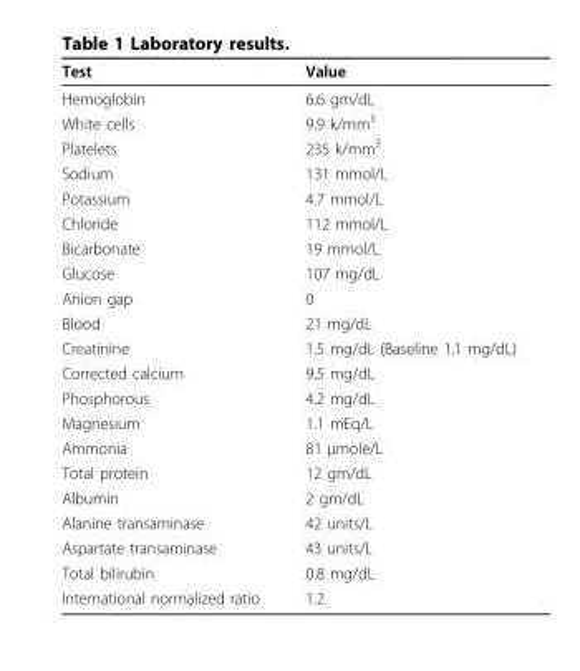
<table><thead><tr><td>Test</td><td>Value</td></tr></thead><tbody><tr><td>Hemoglobin</td><td>6.6 gm/dL</td></tr><tr><td>White cells</td><td>9.9 k/mm<sup>3</sup></td></tr><tr><td>Platelets</td><td>235 k/mm<sup>3</sup></td></tr><tr><td>Sodium</td><td>131 mmol/L</td></tr><tr><td>Potassium</td><td>4.7 mmol/L</td></tr><tr><td>Chloride</td><td>112 mmol/L</td></tr><tr><td>Bicarbonate</td><td>19 mmol/L</td></tr><tr><td>Glucose</td><td>107 mg/dL</td></tr><tr><td>Anion gap</td><td>0</td></tr><tr><td>Blood</td><td>21 mg/dL</td></tr><tr><td>Creatinine</td><td>1.5 mg/dL (Baseline 1.1 mg/dL)</td></tr><tr><td>Corrected calcium</td><td>9.5 mg/dL</td></tr><tr><td>Phosphorous</td><td>4.2 mg/dL</td></tr><tr><td>Magnesium</td><td>1.1 mEq/L</td></tr><tr><td>Ammonia</td><td>81 μmole/L</td></tr><tr><td>Total protein</td><td>12 gm/dL</td></tr><tr><td>Albumin</td><td>2 gm/dL</td></tr><tr><td>Alanine transaminase</td><td>42 units/L</td></tr><tr><td>Aspartate transaminase</td><td>43 units/L</td></tr><tr><td>Total bilirubin</td><td>0.8 mg/dL</td></tr><tr><td>International normalized ratio</td><td>1.2</td></tr></tbody></table>